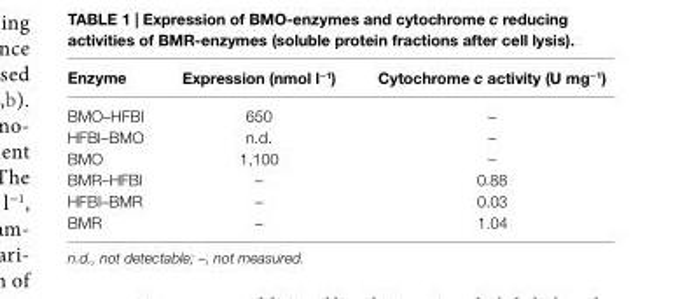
<table><thead><tr><td>enzyme</td><td>expression (nmol l<sup>−1</sup>)</td><td>cytochrome c activity (U mg<sup>−1</sup>)</td></tr></thead><tbody><tr><td>BMO–HFBI</td><td>650</td><td>–</td></tr><tr><td>HFBI–BMO</td><td>n.d.</td><td>–</td></tr><tr><td>BMO</td><td>1,100</td><td>–</td></tr><tr><td>BMR–HFBI</td><td>–</td><td>0.88</td></tr><tr><td>HFBI–BMR</td><td>–</td><td>0.03</td></tr><tr><td>BMR</td><td>–</td><td>1.04</td></tr></tbody></table>